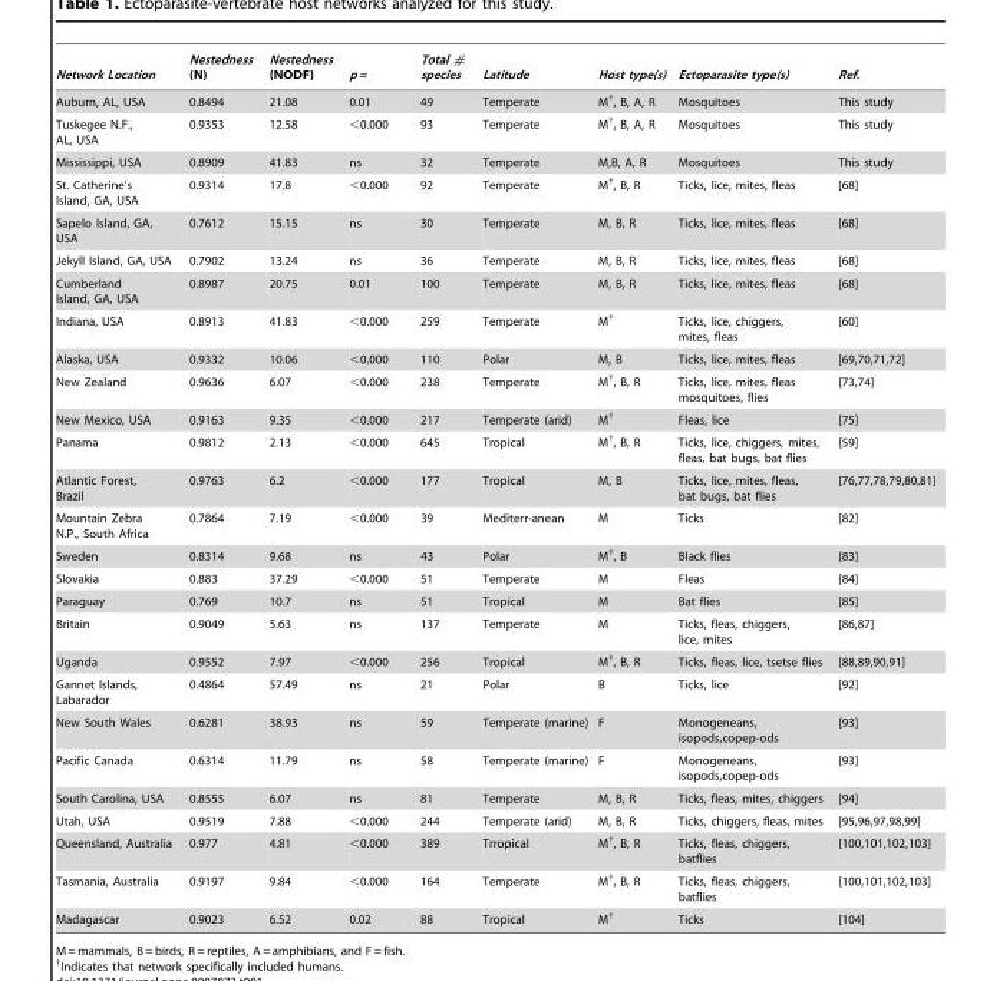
<table><thead><tr><td>Network Location</td><td>Nestedness (N)</td><td>Nestedness (NODF)</td><td>p =</td><td>Total # species</td><td>Latitude</td><td>Host type(s)</td><td>Ectoparasite type(s)</td><td>Ref.</td></tr></thead><tbody><tr><td>Auburn, AL, USA</td><td>0.8494</td><td>21.08</td><td>0.01</td><td>49</td><td>Temperate</td><td>M†, B, A, R</td><td>Mosquitoes</td><td>This study</td></tr><tr><td>Tuskegee N.F., AL, USA</td><td>0.9353</td><td>12.58</td><td>&lt;0.000</td><td>93</td><td>Temperate</td><td>M†, B, A, R</td><td>Mosquitoes</td><td>This study</td></tr><tr><td>Mississippi, USA</td><td>0.8909</td><td>41.83</td><td>ns</td><td>32</td><td>Temperate</td><td>M,B, A, R</td><td>Mosquitoes</td><td>This study</td></tr><tr><td>St. Catherine’s Island, GA, USA</td><td>0.9314</td><td>17.8</td><td>&lt;0.000</td><td>92</td><td>Temperate</td><td>M†, B, R</td><td>Ticks, lice, mites, fleas</td><td>[68]</td></tr><tr><td>Sapelo Island, GA, USA</td><td>0.7612</td><td>15.15</td><td>ns</td><td>30</td><td>Temperate</td><td>M, B, R</td><td>Ticks, lice, mites, fleas</td><td>[68]</td></tr><tr><td>Jekyll Island, GA, USA</td><td>0.7902</td><td>13.24</td><td>ns</td><td>36</td><td>Temperate</td><td>M, B, R</td><td>Ticks, lice, mites, fleas</td><td>[68]</td></tr><tr><td>Cumberland Island, GA, USA</td><td>0.8987</td><td>20.75</td><td>0.01</td><td>100</td><td>Temperate</td><td>M, B, R</td><td>Ticks, lice, mites, fleas</td><td>[68]</td></tr><tr><td>Indiana, USA</td><td>0.8913</td><td>41.83</td><td>&lt;0.000</td><td>259</td><td>Temperate</td><td>M†</td><td>Ticks, lice, chiggers, mites, fleas</td><td>[60]</td></tr><tr><td>Alaska, USA</td><td>0.9332</td><td>10.06</td><td>&lt;0.000</td><td>110</td><td>Polar</td><td>M, B</td><td>Ticks, lice, mites, fleas</td><td>[69,70,71,72]</td></tr><tr><td>New Zealand</td><td>0.9636</td><td>6.07</td><td>&lt;0.000</td><td>238</td><td>Temperate</td><td>M†, B, R</td><td>Ticks, lice, mites, fleas mosquitoes, flies</td><td>[73,74]</td></tr><tr><td>New Mexico, USA</td><td>0.9163</td><td>9.35</td><td>&lt;0.000</td><td>217</td><td>Temperate (arid)</td><td>M†</td><td>Fleas, lice</td><td>[75]</td></tr><tr><td>Panama</td><td>0.9812</td><td>2.13</td><td>&lt;0.000</td><td>645</td><td>Tropical</td><td>M†, B, R</td><td>Ticks, lice, chiggers, mites, fleas, bat bugs, bat flies</td><td>[59]</td></tr><tr><td>Atlantic Forest, Brazil</td><td>0.9763</td><td>6.2</td><td>&lt;0.000</td><td>177</td><td>Tropical</td><td>M, B</td><td>Ticks, lice, mites, fleas, bat bugs, bat flies</td><td>[76,77,78,79,80,81]</td></tr><tr><td>Mountain Zebra N.P., South Africa</td><td>0.7864</td><td>7.19</td><td>&lt;0.000</td><td>39</td><td>Mediterr-anean</td><td>M</td><td>Ticks</td><td>[82]</td></tr><tr><td>Sweden</td><td>0.8314</td><td>9.68</td><td>ns</td><td>43</td><td>Polar</td><td>M†, B</td><td>Black flies</td><td>[83]</td></tr><tr><td>Slovakia</td><td>0.883</td><td>37.29</td><td>&lt;0.000</td><td>51</td><td>Temperate</td><td>M</td><td>Fleas</td><td>[84]</td></tr><tr><td>Paraguay</td><td>0.769</td><td>10.7</td><td>ns</td><td>51</td><td>Tropical</td><td>M</td><td>Bat flies</td><td>[85]</td></tr><tr><td>Britain</td><td>0.9049</td><td>5.63</td><td>ns</td><td>137</td><td>Temperate</td><td>M</td><td>Ticks, fleas, chiggers, lice, mites</td><td>[86,87]</td></tr><tr><td>Uganda</td><td>0.9552</td><td>7.97</td><td>&lt;0.000</td><td>256</td><td>Tropical</td><td>M†, B, R</td><td>Ticks, fleas, lice, tsetse flies</td><td>[88,89,90,91]</td></tr><tr><td>Gannet Islands, Labarador</td><td>0.4864</td><td>57.49</td><td>ns</td><td>21</td><td>Polar</td><td>B</td><td>Ticks, lice</td><td>[92]</td></tr><tr><td>New South Wales</td><td>0.6281</td><td>38.93</td><td>ns</td><td>59</td><td>Temperate (marine)</td><td>F</td><td>Monogeneans, isopods,copep-ods</td><td>[93]</td></tr><tr><td>Pacific Canada</td><td>0.6314</td><td>11.79</td><td>ns</td><td>58</td><td>Temperate (marine)</td><td>F</td><td>Monogeneans, isopods,copep-ods</td><td>[93]</td></tr><tr><td>South Carolina, USA</td><td>0.8555</td><td>6.07</td><td>ns</td><td>81</td><td>Temperate</td><td>M, B, R</td><td>Ticks, fleas, mites, chiggers</td><td>[94]</td></tr><tr><td>Utah, USA</td><td>0.9519</td><td>7.88</td><td>&lt;0.000</td><td>244</td><td>Temperate (arid)</td><td>M, B, R</td><td>Ticks, chiggers, fleas, mites</td><td>[95,96,97,98,99]</td></tr><tr><td>Queensland, Australia</td><td>0.977</td><td>4.81</td><td>&lt;0.000</td><td>389</td><td>Trropical</td><td>M†, B, R</td><td>Ticks, fleas, chiggers, batflies</td><td>[100,101,102,103]</td></tr><tr><td>Tasmania, Australia</td><td>0.9197</td><td>9.84</td><td>&lt;0.000</td><td>164</td><td>Temperate</td><td>M†, B, R</td><td>Ticks, fleas, chiggers, batflies</td><td>[100,101,102,103]</td></tr><tr><td>Madagascar</td><td>0.9023</td><td>6.52</td><td>0.02</td><td>88</td><td>Tropical</td><td>M†</td><td>Ticks</td><td>[104]</td></tr></tbody></table>